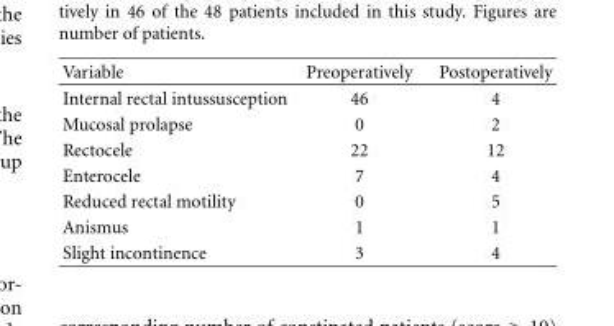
<table><thead><tr><td>Variable</td><td>Preoperatively</td><td>Postoperatively</td></tr></thead><tbody><tr><td>Internal rectal intussusception</td><td>46</td><td>4</td></tr><tr><td>Mucosal prolapse</td><td>0</td><td>2</td></tr><tr><td>Rectocele</td><td>22</td><td>12</td></tr><tr><td>Enterocele</td><td>7</td><td>4</td></tr><tr><td>Reduced rectal motility</td><td>0</td><td>5</td></tr><tr><td>Anismus</td><td>1</td><td>1</td></tr><tr><td>Slight incontinence</td><td>3</td><td>4</td></tr></tbody></table>